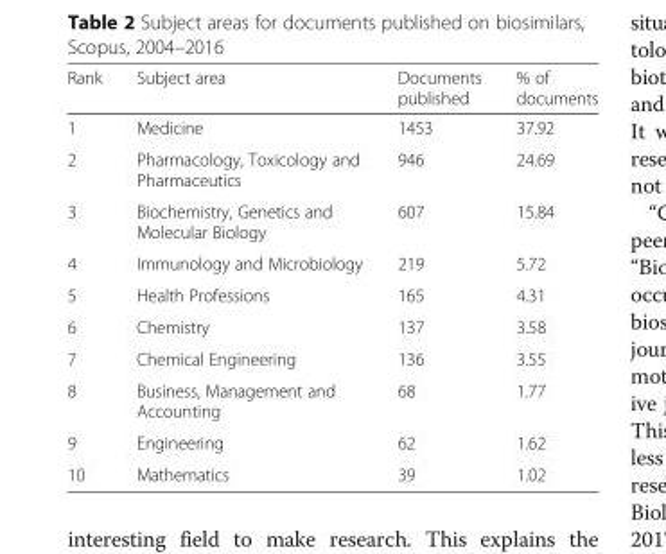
<table><thead><tr><td>Rank</td><td>Subject area</td><td>Documents published</td><td>% of documents</td></tr></thead><tbody><tr><td>1</td><td>Medicine</td><td>1453</td><td>37.92</td></tr><tr><td>2</td><td>Pharmacology, Toxicology and Pharmaceutics</td><td>946</td><td>24.69</td></tr><tr><td>3</td><td>Biochemistry, Genetics and Molecular Biology</td><td>607</td><td>15.84</td></tr><tr><td>4</td><td>Immunology and Microbiology</td><td>219</td><td>5.72</td></tr><tr><td>5</td><td>Health Professions</td><td>165</td><td>4.31</td></tr><tr><td>6</td><td>Chemistry</td><td>137</td><td>3.58</td></tr><tr><td>7</td><td>Chemical Engineering</td><td>136</td><td>3.55</td></tr><tr><td>8</td><td>Business, Management and Accounting</td><td>68</td><td>1.77</td></tr><tr><td>9</td><td>Engineering</td><td>62</td><td>1.62</td></tr><tr><td>10</td><td>Mathematics</td><td>39</td><td>1.02</td></tr></tbody></table>